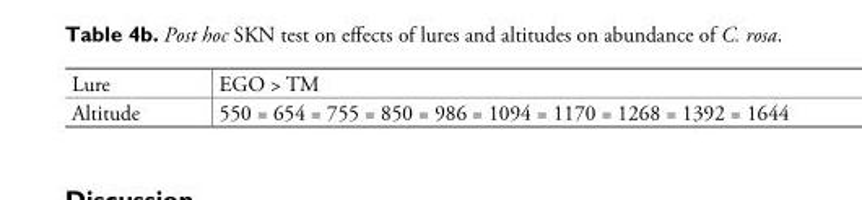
<table><tbody><tr><td>Lure</td><td>EGO &gt; TM</td></tr><tr><td>Altitude</td><td>550 = 654 = 755 = 850 = 986 = 1094 = 1170 = 1268 = 1392 = 1644</td></tr></tbody></table>